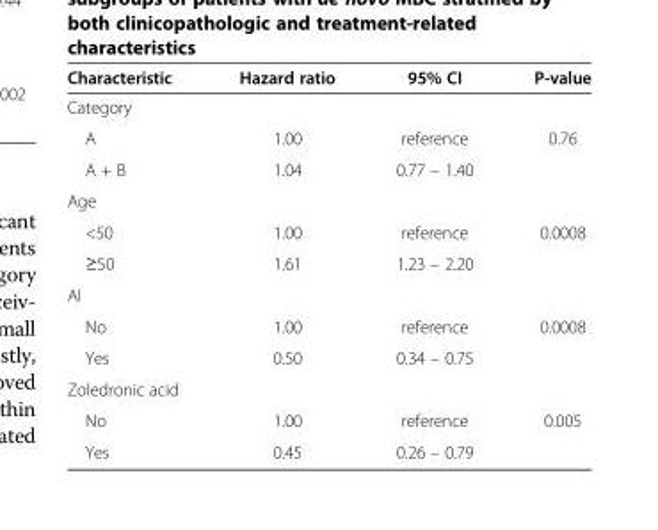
<table><thead><tr><td>Characteristic</td><td>Hazard ratio</td><td>95% CI</td><td>P-value</td></tr></thead><tbody><tr><td colspan="4">Category</td></tr><tr><td>A</td><td>1.00</td><td>reference</td><td>0.76</td></tr><tr><td>A + B</td><td>1.04</td><td>0.77 – 1.40</td><td></td></tr><tr><td colspan="4">Age</td></tr><tr><td>&lt;50</td><td>1.00</td><td>reference</td><td>0.0008</td></tr><tr><td>≥50</td><td>1.61</td><td>1.23 – 2.20</td><td></td></tr><tr><td colspan="4">AI</td></tr><tr><td>No</td><td>1.00</td><td>reference</td><td>0.0008</td></tr><tr><td>Yes</td><td>0.50</td><td>0.34 – 0.75</td><td></td></tr><tr><td colspan="4">Zoledronic acid</td></tr><tr><td>No</td><td>1.00</td><td>reference</td><td>0.005</td></tr><tr><td>Yes</td><td>0.45</td><td>0.26 – 0.79</td><td></td></tr></tbody></table>